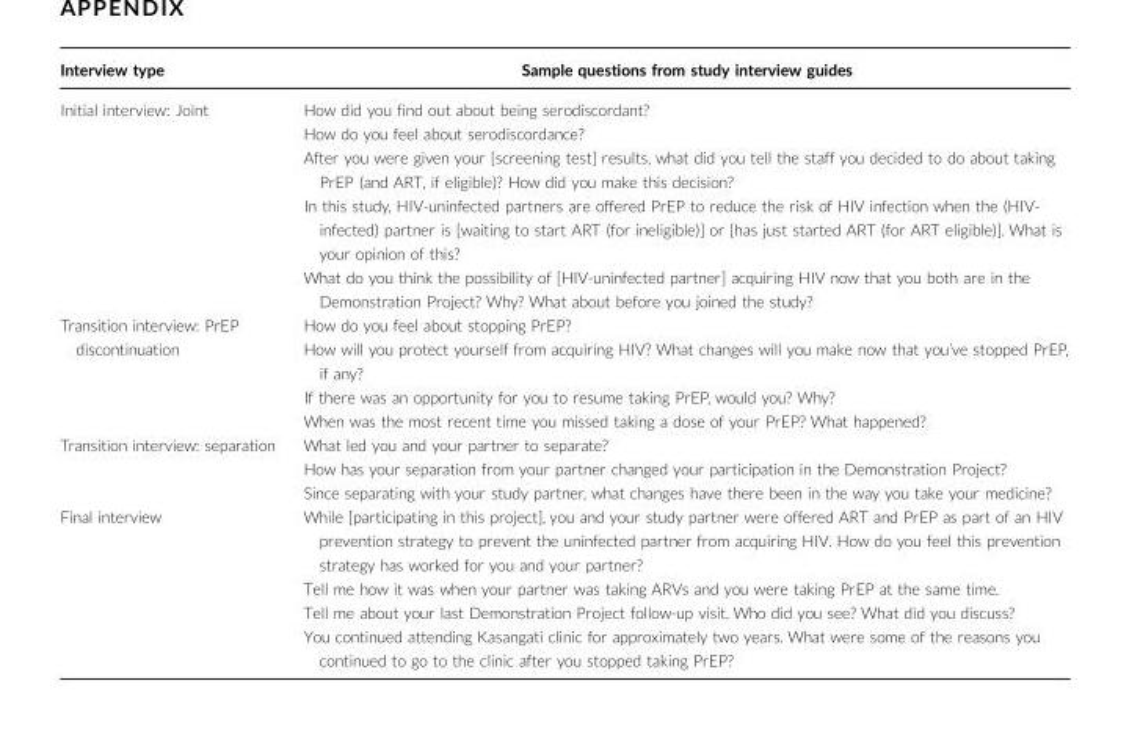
<table><thead><tr><td>Interview type</td><td>Sample questions from study interview guides</td></tr></thead><tbody><tr><td rowspan="5">Initial interview: Joint</td><td>How did you find out about being serodiscordant?</td></tr><tr><td>How do you feel about serodiscordance?</td></tr><tr><td>After you were given your [screening test] results, what did you tell the staff you decided to do about taking PrEP (and ART, if eligible)? How did you make this decision?</td></tr><tr><td>In this study, HIV-uninfected partners are offered PrEP to reduce the risk of HIV infection when the (HIV- infected) partner is [waiting to start ART (for ineligible)] or [has just started ART (for ART eligible)]. What is your opinion of this?</td></tr><tr><td>What do you think the possibility of [HIV-uninfected partner] acquiring HIV now that you both are in the Demonstration Project? Why? What about before you joined the study?</td></tr><tr><td rowspan="4">Transition interview: PrEP discontinuation</td><td>How do you feel about stopping PrEP?</td></tr><tr><td>How will you protect yourself from acquiring HIV? What changes will you make now that you’ve stopped PrEP, if any?</td></tr><tr><td>If there was an opportunity for you to resume taking PrEP, would you? Why?</td></tr><tr><td>When was the most recent time you missed taking a dose of your PrEP? What happened?</td></tr><tr><td rowspan="3">Transition interview: separation</td><td>What led you and your partner to separate?</td></tr><tr><td>How has your separation from your partner changed your participation in the Demonstration Project?</td></tr><tr><td>Since separating with your study partner, what changes have there been in the way you take your medicine?</td></tr><tr><td rowspan="4">Final interview</td><td>While [participating in this project], you and your study partner were offered ART and PrEP as part of an HIV prevention strategy to prevent the uninfected partner from acquiring HIV. How do you feel this prevention strategy has worked for you and your partner?</td></tr><tr><td>Tell me how it was when your partner was taking ARVs and you were taking PrEP at the same time.</td></tr><tr><td>Tell me about your last Demonstration Project follow-up visit. Who did you see? What did you discuss?</td></tr><tr><td>You continued attending Kasangati clinic for approximately two years. What were some of the reasons you continued to go to the clinic after you stopped taking PrEP?</td></tr></tbody></table>